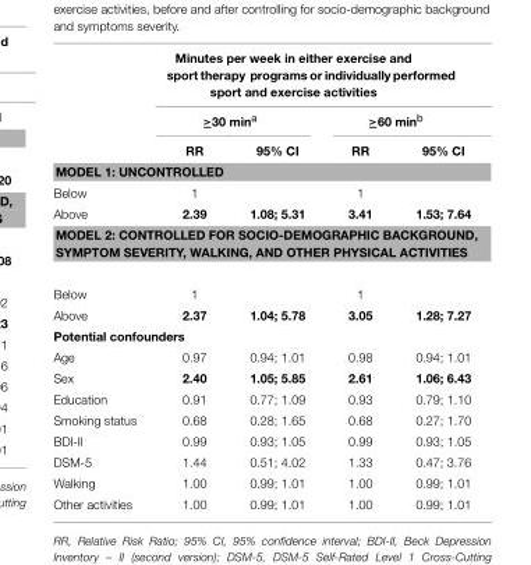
<table><thead><tr><td rowspan="3"></td><td colspan="4">Minutes per week in either exercise and sport therapy programs or individually performed sport and exercise activities</td></tr><tr><td colspan="2">≥30 min<sup>a</sup></td><td colspan="2">≥60 min<sup>b</sup></td></tr><tr><td>RR</td><td>95% CI</td><td>RR</td><td>95% CI</td></tr></thead><tbody><tr><td colspan="5">MODEL 1: UNCONTROLLED</td></tr><tr><td>Below</td><td>1</td><td></td><td>1</td><td></td></tr><tr><td>Above</td><td>2.39</td><td>1.08; 5.31</td><td>3.41</td><td>1.53; 7.64</td></tr><tr><td colspan="5">MODEL 2: CONTROLLED FOR SOCIO-DEMOGRAPHIC BACKGROUND, SYMPTOM SEVERITY, WALKING, AND OTHER PHYSICAL ACTIVITIES</td></tr><tr><td>Below</td><td>1</td><td></td><td>1</td><td></td></tr><tr><td>Above</td><td>2.37</td><td>1.04; 5.78</td><td>3.05</td><td>1.28; 7.27</td></tr><tr><td colspan="5">Potential confounders</td></tr><tr><td>Age</td><td>0.97</td><td>0.94; 1.01</td><td>0.98</td><td>0.94; 1.01</td></tr><tr><td>Sex</td><td>2.40</td><td>1.05; 5.85</td><td>2.61</td><td>1.06; 6.43</td></tr><tr><td>Education</td><td>0.91</td><td>0.77; 1.09</td><td>0.93</td><td>0.79; 1.10</td></tr><tr><td>Smoking status</td><td>0.68</td><td>0.28; 1.65</td><td>0.68</td><td>0.27; 1.70</td></tr><tr><td>BDI-II</td><td>0.99</td><td>0.93; 1.05</td><td>0.99</td><td>0.93; 1.05</td></tr><tr><td>DSM-5</td><td>1.44</td><td>0.51; 4.02</td><td>1.33</td><td>0.47; 3.76</td></tr><tr><td>Walking</td><td>1.00</td><td>0.99; 1.01</td><td>1.00</td><td>0.99; 1.01</td></tr><tr><td>Other activities</td><td>1.00</td><td>0.99; 1.01</td><td>1.00</td><td>0.99; 1.01</td></tr></tbody></table>